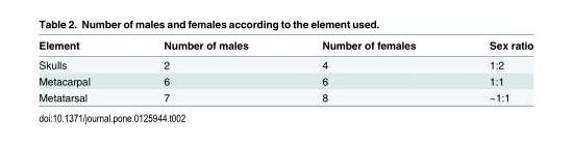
<table><thead><tr><td>Element</td><td>Number of males</td><td>Number of females</td><td>Sex ratio</td></tr></thead><tbody><tr><td>Skulls</td><td>2</td><td>4</td><td>1:2</td></tr><tr><td>Metacarpal</td><td>6</td><td>6</td><td>1:1</td></tr><tr><td>Metatarsal</td><td>7</td><td>8</td><td>~1:1</td></tr></tbody></table>